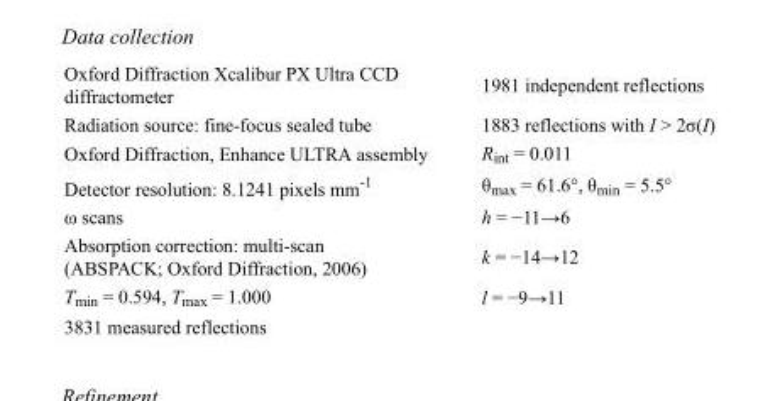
<table><tbody><tr><td>Oxford Diffraction Xcalibur PX Ultra CCD diffractometer</td><td>1981 independent reflections</td></tr><tr><td>Radiation source: fine-focus sealed tube</td><td>1883 reflections with I &gt; 2σ(I)</td></tr><tr><td>Oxford Diffraction, Enhance ULTRA assembly</td><td>R<sub>int</sub> = 0.011</td></tr><tr><td>Detector resolution: 8.1241 pixels mm<sup>-1</sup></td><td>θ<sub>max</sub> = 61.6°, θ<sub>min</sub> = 5.5°</td></tr><tr><td>ω scans</td><td>h = −11→6</td></tr><tr><td>Absorption correction: multi-scan (ABSPACK; Oxford Diffraction, 2006)</td><td>k = −14→12</td></tr><tr><td>T<sub>min</sub> = 0.594, T<sub>max</sub> = 1.000</td><td>l = −9→11</td></tr><tr><td>3831 measured reflections</td><td></td></tr></tbody></table>